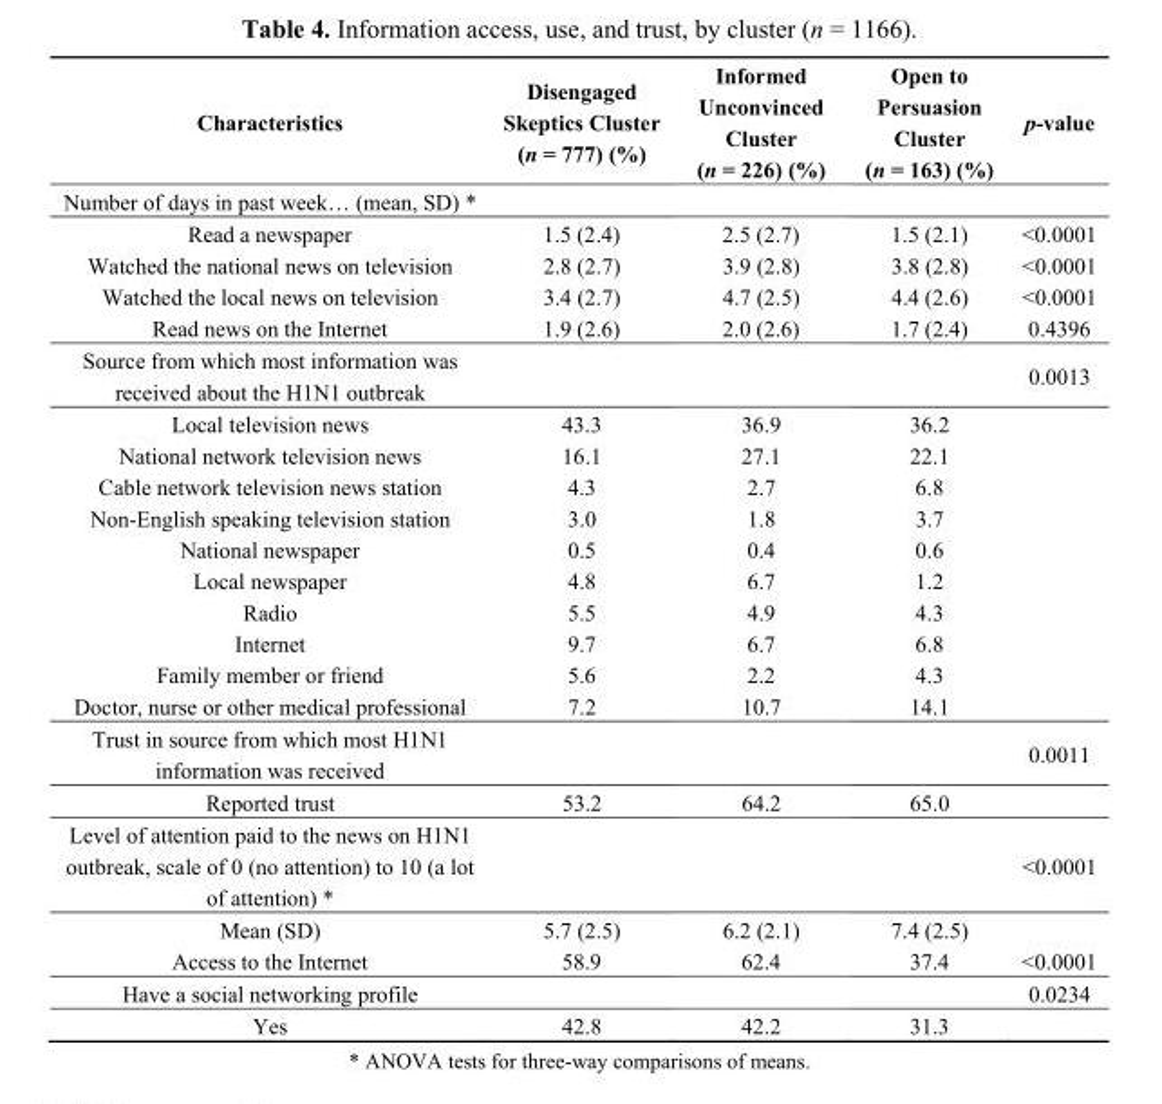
<table><thead><tr><td>Characteristics</td><td>Disengaged Skeptics Cluster (n = 777) (%)</td><td>Informed Unconvinced Cluster (n = 226) (%)</td><td>Open to Persuasion Cluster (n = 163) (%)</td><td>p-value</td></tr></thead><tbody><tr><td colspan="5">Number of days in past week… (mean, SD) *</td></tr><tr><td>Read a newspaper</td><td>1.5 (2.4)</td><td>2.5 (2.7)</td><td>1.5 (2.1)</td><td>&lt;0.0001</td></tr><tr><td>Watched the national news on television</td><td>2.8 (2.7)</td><td>3.9 (2.8)</td><td>3.8 (2.8)</td><td>&lt;0.0001</td></tr><tr><td>Watched the local news on television</td><td>3.4 (2.7)</td><td>4.7 (2.5)</td><td>4.4 (2.6)</td><td>&lt;0.0001</td></tr><tr><td>Read news on the Internet</td><td>1.9 (2.6)</td><td>2.0 (2.6)</td><td>1.7 (2.4)</td><td>0.4396</td></tr><tr><td>Source from which most information was received about the H1N1 outbreak</td><td></td><td></td><td></td><td>0.0013</td></tr><tr><td>Local television news</td><td>43.3</td><td>36.9</td><td>36.2</td><td></td></tr><tr><td>National network television news</td><td>16.1</td><td>27.1</td><td>22.1</td><td></td></tr><tr><td>Cable network television news station</td><td>4.3</td><td>2.7</td><td>6.8</td><td></td></tr><tr><td>Non-English speaking television station</td><td>3.0</td><td>1.8</td><td>3.7</td><td></td></tr><tr><td>National newspaper</td><td>0.5</td><td>0.4</td><td>0.6</td><td></td></tr><tr><td>Local newspaper</td><td>4.8</td><td>6.7</td><td>1.2</td><td></td></tr><tr><td>Radio</td><td>5.5</td><td>4.9</td><td>4.3</td><td></td></tr><tr><td>Internet</td><td>9.7</td><td>6.7</td><td>6.8</td><td></td></tr><tr><td>Family member or friend</td><td>5.6</td><td>2.2</td><td>4.3</td><td></td></tr><tr><td>Doctor, nurse or other medical professional</td><td>7.2</td><td>10.7</td><td>14.1</td><td></td></tr><tr><td>Trust in source from which most H1N1 information was received</td><td></td><td></td><td></td><td>0.0011</td></tr><tr><td>Reported trust</td><td>53.2</td><td>64.2</td><td>65.0</td><td></td></tr><tr><td>Level of attention paid to the news on H1N1 outbreak, scale of 0 (no attention) to 10 (a lot of attention) *</td><td></td><td></td><td></td><td>&lt;0.0001</td></tr><tr><td>Mean (SD)</td><td>5.7 (2.5)</td><td>6.2 (2.1)</td><td>7.4 (2.5)</td><td></td></tr><tr><td>Access to the Internet</td><td>58.9</td><td>62.4</td><td>37.4</td><td>&lt;0.0001</td></tr><tr><td>Have a social networking profile</td><td></td><td></td><td></td><td>0.0234</td></tr><tr><td>Yes</td><td>42.8</td><td>42.2</td><td>31.3</td><td></td></tr></tbody></table>